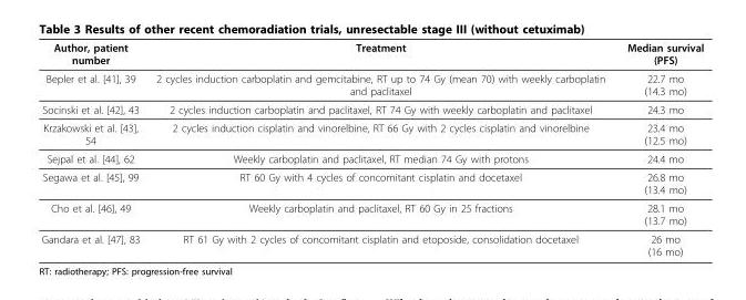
<table><thead><tr><td>Author, patient number</td><td>Treatment</td><td>Median survival (PFS)</td></tr></thead><tbody><tr><td>Bepler et al. [41], 39</td><td>2 cycles induction carboplatin and gemcitabine, RT up to 74 Gy (mean 70) with weekly carboplatin and paclitaxel</td><td>22.7 mo (14.3 mo)</td></tr><tr><td>Socinski et al. [42], 43</td><td>2 cycles induction carboplatin and paclitaxel, RT 74 Gy with weekly carboplatin and paclitaxel</td><td>24.3 mo</td></tr><tr><td>Krzakowski et al. [43], 54</td><td>2 cycles induction cisplatin and vinorelbine, RT 66 Gy with 2 cycles cisplatin and vinorelbine</td><td>23.4 mo (12.5 mo)</td></tr><tr><td>Sejpal et al. [44], 62</td><td>Weekly carboplatin and paclitaxel, RT median 74 Gy with protons</td><td>24.4 mo</td></tr><tr><td>Segawa et al. [45], 99</td><td>RT 60 Gy with 4 cycles of concomitant cisplatin and docetaxel</td><td>26.8 mo (13.4 mo)</td></tr><tr><td>Cho et al. [46], 49</td><td>Weekly carboplatin and paclitaxel, RT 60 Gy in 25 fractions</td><td>28.1 mo (13.7 mo)</td></tr><tr><td>Gandara et al. [47], 83</td><td>RT 61 Gy with 2 cycles of concomitant cisplatin and etoposide, consolidation docetaxel</td><td>26 mo (16 mo)</td></tr></tbody></table>